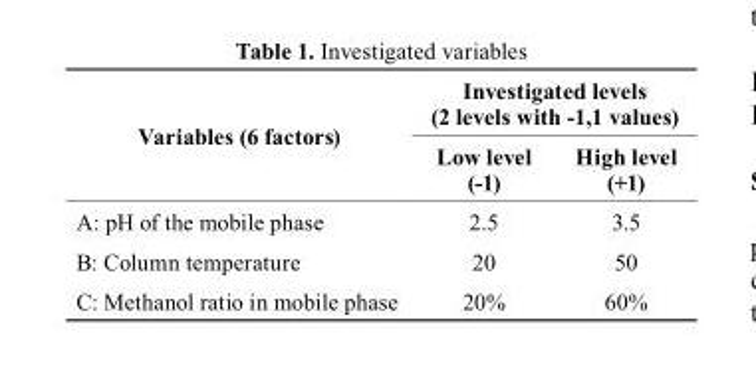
<table><thead><tr><td rowspan="2">Variables (6 factors)</td><td colspan="2">Investigated levels (2 levels with -1,1 values)</td></tr><tr><td>Low level (-1)</td><td>High level (+1)</td></tr></thead><tbody><tr><td>A: pH of the mobile phase</td><td>2.5</td><td>3.5</td></tr><tr><td>B: Column temperature</td><td>20</td><td>50</td></tr><tr><td>C: Methanol ratio in mobile phase</td><td>20%</td><td>60%</td></tr></tbody></table>